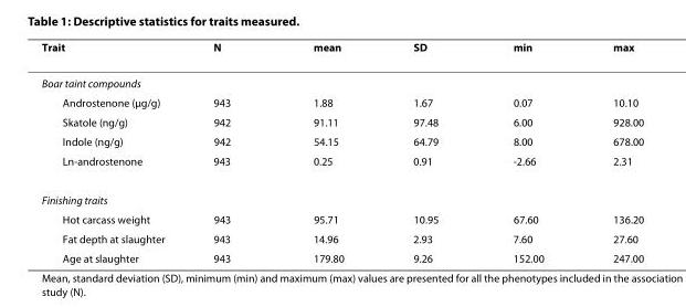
<table><thead><tr><td>Trait</td><td>N</td><td>mean</td><td>SD</td><td>min</td><td>max</td></tr></thead><tbody><tr><td colspan="6">Boar taint compounds</td></tr><tr><td>Androstenone (μg/g)</td><td>943</td><td>1.88</td><td>1.67</td><td>0.07</td><td>10.10</td></tr><tr><td>Skatole (ng/g)</td><td>942</td><td>91.11</td><td>97.48</td><td>6.00</td><td>928.00</td></tr><tr><td>Indole (ng/g)</td><td>942</td><td>54.15</td><td>64.79</td><td>8.00</td><td>678.00</td></tr><tr><td>Ln-androstenone</td><td>943</td><td>0.25</td><td>0.91</td><td>-2.66</td><td>2.31</td></tr><tr><td colspan="6">Finishing traits</td></tr><tr><td>Hot carcass weight</td><td>943</td><td>95.71</td><td>10.95</td><td>67.60</td><td>136.20</td></tr><tr><td>Fat depth at slaughter</td><td>943</td><td>14.96</td><td>2.93</td><td>7.60</td><td>27.60</td></tr><tr><td>Age at slaughter</td><td>943</td><td>179.80</td><td>9.26</td><td>152.00</td><td>247.00</td></tr></tbody></table>